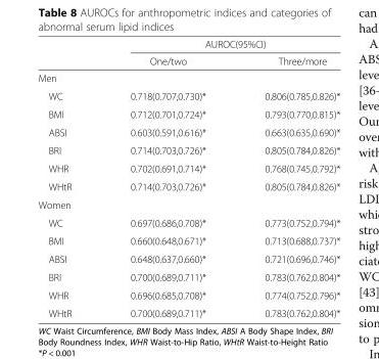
<table><thead><tr><td rowspan="2"></td><td colspan="2">AUROC(95%CI)</td></tr><tr><td>One/two</td><td>Three/more</td></tr></thead><tbody><tr><td colspan="3">Men</td></tr><tr><td>WC</td><td>0.718(0.707,0.730)*</td><td>0.806(0.785,0.826)*</td></tr><tr><td>BMI</td><td>0.712(0.701,0.724)*</td><td>0.793(0.770,0.815)*</td></tr><tr><td>ABSI</td><td>0.603(0.591,0.616)*</td><td>0.663(0.635,0.690)*</td></tr><tr><td>BRI</td><td>0.714(0.703,0.726)*</td><td>0.805(0.784,0.826)*</td></tr><tr><td>WHR</td><td>0.702(0.691,0.714)*</td><td>0.768(0.745,0.792)*</td></tr><tr><td>WHtR</td><td>0.714(0.703,0.726)*</td><td>0.805(0.784,0.826)*</td></tr><tr><td colspan="3">Women</td></tr><tr><td>WC</td><td>0.697(0.686,0.708)*</td><td>0.773(0.752,0.794)*</td></tr><tr><td>BMI</td><td>0.660(0.648,0.671)*</td><td>0.713(0.688,0.737)*</td></tr><tr><td>ABSI</td><td>0.648(0.637,0.660)*</td><td>0.721(0.696,0.746)*</td></tr><tr><td>BRI</td><td>0.700(0.689,0.711)*</td><td>0.783(0.762,0.804)*</td></tr><tr><td>WHR</td><td>0.696(0.685,0.708)*</td><td>0.774(0.752,0.796)*</td></tr><tr><td>WHtR</td><td>0.700(0.689,0.711)*</td><td>0.783(0.762,0.804)*</td></tr></tbody></table>